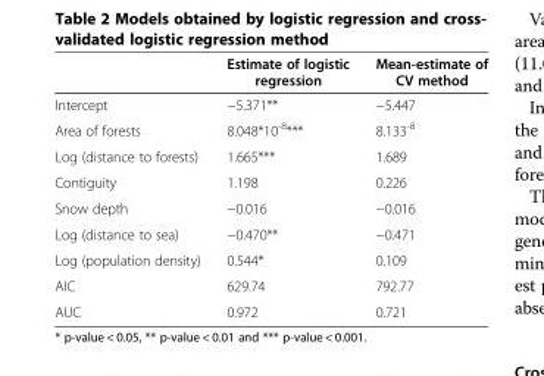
<table><thead><tr><td></td><td>Estimate of logistic regression</td><td>Mean-estimate of CV method</td></tr></thead><tbody><tr><td>Intercept</td><td>−5.371**</td><td>−5.447</td></tr><tr><td>Area of forests</td><td>8.048*10<sup>-8</sup>***</td><td>8.133<sup>-8</sup></td></tr><tr><td>Log (distance to forests)</td><td>1.665***</td><td>1.689</td></tr><tr><td>Contiguity</td><td>1.198</td><td>0.226</td></tr><tr><td>Snow depth</td><td>−0.016</td><td>−0.016</td></tr><tr><td>Log (distance to sea)</td><td>−0.470**</td><td>−0.471</td></tr><tr><td>Log (population density)</td><td>0.544*</td><td>0.109</td></tr><tr><td>AIC</td><td>629.74</td><td>792.77</td></tr><tr><td>AUC</td><td>0.972</td><td>0.721</td></tr></tbody></table>